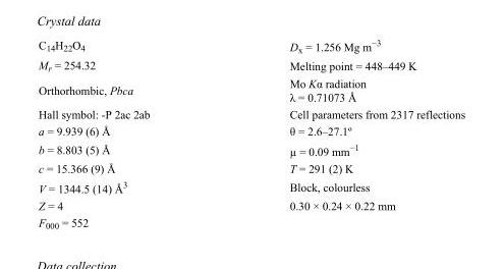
<table><tbody><tr><td>C<sub>14</sub>H<sub>22</sub>O<sub>4</sub></td><td>D<sub>x</sub> = 1.256 Mg m<sup>−3</sup></td></tr><tr><td>M<sub>r</sub> = 254.32</td><td>Melting point = 448–449 K</td></tr><tr><td>Orthorhombic, Pbca</td><td>Mo Kα radiation λ = 0.71073 Å</td></tr><tr><td>Hall symbol: -P 2ac 2ab</td><td>Cell parameters from 2317 reflections</td></tr><tr><td>a = 9.939 (6) Å</td><td>θ = 2.6–27.1º</td></tr><tr><td>b = 8.803 (5) Å</td><td>µ = 0.09 mm<sup>−1</sup></td></tr><tr><td>c = 15.366 (9) Å</td><td>T = 291 (2) K</td></tr><tr><td>V = 1344.5 (14) Å<sup>3</sup></td><td>Block, colourless</td></tr><tr><td>Z = 4</td><td>0.30 × 0.24 × 0.22 mm</td></tr><tr><td>F000 = 552</td><td></td></tr></tbody></table>